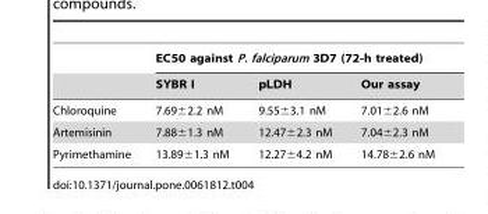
<table><thead><tr><td rowspan="2"></td><td colspan="3">EC50 against P. falciparum 3D7 (72-h treated)</td></tr><tr><td>SYBR I</td><td>pLDH</td><td>Our assay</td></tr></thead><tbody><tr><td>Chloroquine</td><td>7.69±2.2 nM</td><td>9.55±3.1 nM</td><td>7.01±2.6 nM</td></tr><tr><td>Artemisinin</td><td>7.88±1.3 nM</td><td>12.47±2.3 nM</td><td>7.04±2.3 nM</td></tr><tr><td>Pyrimethamine</td><td>13.89±1.3 nM</td><td>12.27±4.2 nM</td><td>14.78±2.6 nM</td></tr></tbody></table>